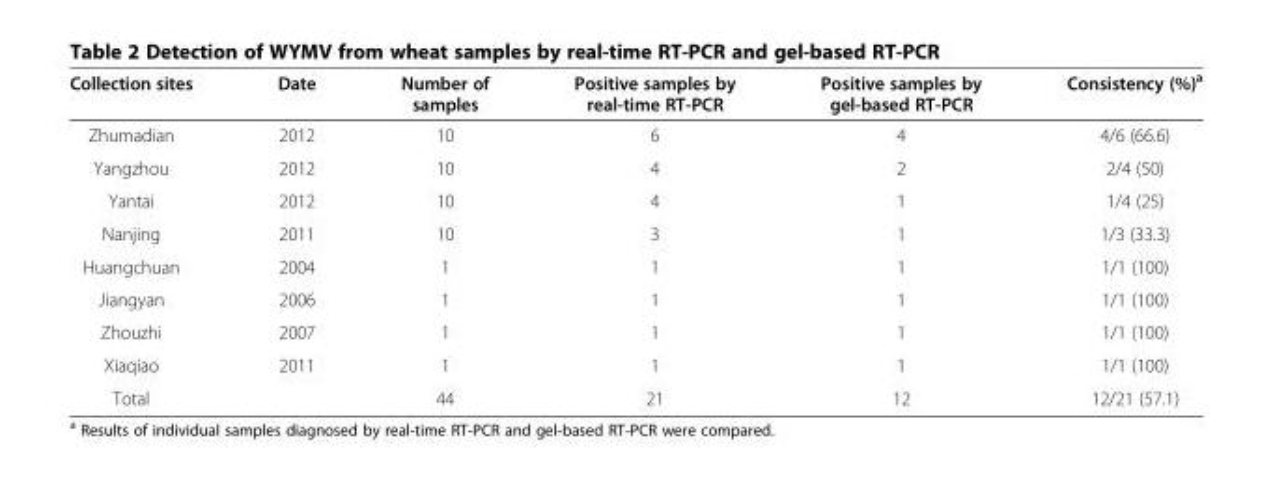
<table><thead><tr><td>Collection sites</td><td>Date</td><td>Number of samples</td><td>Positive samples by real-time RT-PCR</td><td>Positive samples by gel-based RT-PCR</td><td>Consistency (%)<sup>a</sup></td></tr></thead><tbody><tr><td>Zhumadian</td><td>2012</td><td>10</td><td>6</td><td>4</td><td>4/6 (66.6)</td></tr><tr><td>Yangzhou</td><td>2012</td><td>10</td><td>4</td><td>2</td><td>2/4 (50)</td></tr><tr><td>Yantai</td><td>2012</td><td>10</td><td>4</td><td>1</td><td>1/4 (25)</td></tr><tr><td>Nanjing</td><td>2011</td><td>10</td><td>3</td><td>1</td><td>1/3 (33.3)</td></tr><tr><td>Huangchuan</td><td>2004</td><td>1</td><td>1</td><td>1</td><td>1/1 (100)</td></tr><tr><td>Jiangyan</td><td>2006</td><td>1</td><td>1</td><td>1</td><td>1/1 (100)</td></tr><tr><td>Zhouzhi</td><td>2007</td><td>1</td><td>1</td><td>1</td><td>1/1 (100)</td></tr><tr><td>Xiaqiao</td><td>2011</td><td>1</td><td>1</td><td>1</td><td>1/1 (100)</td></tr><tr><td>Total</td><td></td><td>44</td><td>21</td><td>12</td><td>12/21 (57.1)</td></tr></tbody></table>